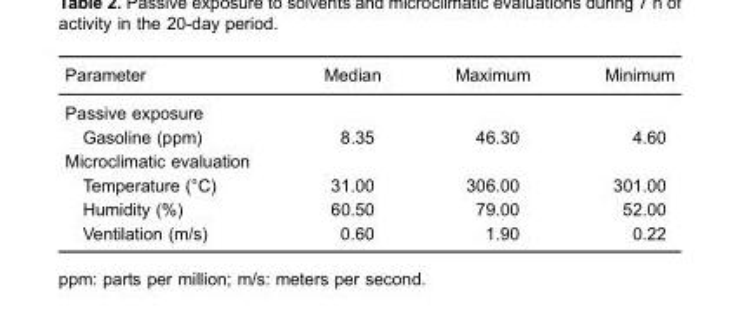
<table><thead><tr><td>Parameter</td><td>Median</td><td>Maximum</td><td>Minimum</td></tr></thead><tbody><tr><td colspan="4">Passive exposure</td></tr><tr><td>Gasoline (ppm)</td><td>8.35</td><td>46.30</td><td>4.60</td></tr><tr><td colspan="4">Microclimatic evaluation</td></tr><tr><td>Temperature (°C)</td><td>31.00</td><td>306.00</td><td>301.00</td></tr><tr><td>Humidity (%)</td><td>60.50</td><td>79.00</td><td>52.00</td></tr><tr><td>Ventilation (m/s)</td><td>0.60</td><td>1.90</td><td>0.22</td></tr></tbody></table>